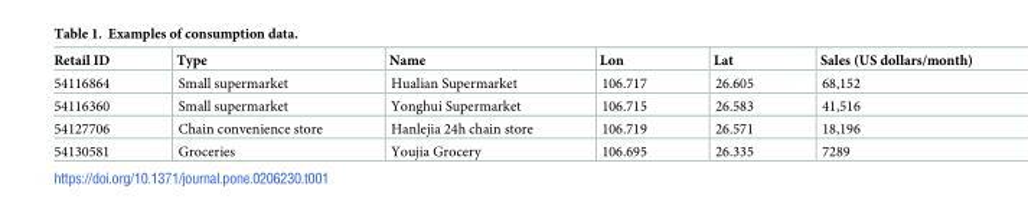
<table><thead><tr><td>Retail ID</td><td>Type</td><td>Name</td><td>Lon</td><td>Lat</td><td>Sales (US dollars/month)</td></tr></thead><tbody><tr><td>54116864</td><td>Small supermarket</td><td>Hualian Supermarket</td><td>106.717</td><td>26.605</td><td>68,152</td></tr><tr><td>54116360</td><td>Small supermarket</td><td>Yonghui Supermarket</td><td>106.715</td><td>26.583</td><td>41,516</td></tr><tr><td>54127706</td><td>Chain convenience store</td><td>Hanlejia 24h chain store</td><td>106.719</td><td>26.571</td><td>18,196</td></tr><tr><td>54130581</td><td>Groceries</td><td>Youjia Grocery</td><td>106.695</td><td>26.335</td><td>7289</td></tr></tbody></table>